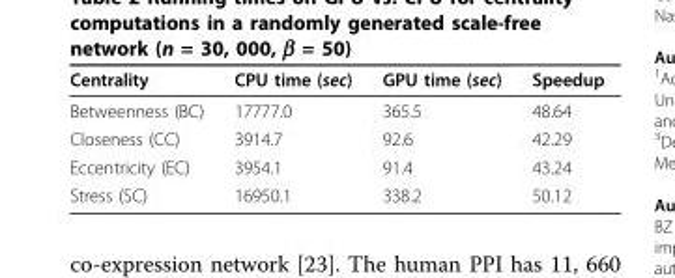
<table><thead><tr><td>Centrality</td><td>CPU time (sec)</td><td>GPU time (sec)</td><td>Speedup</td></tr></thead><tbody><tr><td>Betweenness (BC)</td><td>17777.0</td><td>365.5</td><td>48.64</td></tr><tr><td>Closeness (CC)</td><td>3914.7</td><td>92.6</td><td>42.29</td></tr><tr><td>Eccentricity (EC)</td><td>3954.1</td><td>91.4</td><td>43.24</td></tr><tr><td>Stress (SC)</td><td>16950.1</td><td>338.2</td><td>50.12</td></tr></tbody></table>